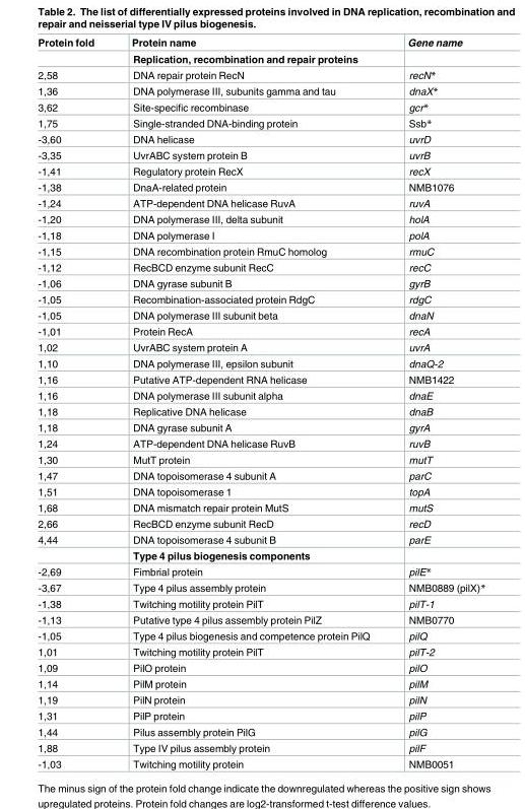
<table><thead><tr><td>Protein fold</td><td>Protein name</td><td>Gene name</td></tr></thead><tbody><tr><td></td><td>Replication, recombination and repair proteins</td><td></td></tr><tr><td>2,58</td><td>DNA repair protein RecN</td><td>recN*</td></tr><tr><td>1,36</td><td>DNA polymerase III, subunits gamma and tau</td><td>dnaX*</td></tr><tr><td>3,62</td><td>Site-specific recombinase</td><td>gcr*</td></tr><tr><td>1,75</td><td>Single-stranded DNA-binding protein</td><td>Ssb*</td></tr><tr><td>-3,60</td><td>DNA helicase</td><td>uvrD</td></tr><tr><td>-3,35</td><td>UvrABC system protein B</td><td>uvrB</td></tr><tr><td>-1,41</td><td>Regulatory protein RecX</td><td>recX</td></tr><tr><td>-1,38</td><td>DnaA-related protein</td><td>NMB1076</td></tr><tr><td>-1,24</td><td>ATP-dependent DNA helicase RuvA</td><td>ruvA</td></tr><tr><td>-1,20</td><td>DNA polymerase III, delta subunit</td><td>holA</td></tr><tr><td>-1,18</td><td>DNA polymerase I</td><td>polA</td></tr><tr><td>-1,15</td><td>DNA recombination protein RmuC homolog</td><td>rmuC</td></tr><tr><td>-1,12</td><td>RecBCD enzyme subunit RecC</td><td>recC</td></tr><tr><td>-1,06</td><td>DNA gyrase subunit B</td><td>gyrB</td></tr><tr><td>-1,05</td><td>Recombination-associated protein RdgC</td><td>rdgC</td></tr><tr><td>-1,05</td><td>DNA polymerase III subunit beta</td><td>dnaN</td></tr><tr><td>-1,01</td><td>Protein RecA</td><td>recA</td></tr><tr><td>1,02</td><td>UvrABC system protein A</td><td>uvrA</td></tr><tr><td>1,10</td><td>DNA polymerase III, epsilon subunit</td><td>dnaQ-2</td></tr><tr><td>1,16</td><td>Putative ATP-dependent RNA helicase</td><td>NMB1422</td></tr><tr><td>1,16</td><td>DNA polymerase III subunit alpha</td><td>dnaE</td></tr><tr><td>1,18</td><td>Replicative DNA helicase</td><td>dnaB</td></tr><tr><td>1,18</td><td>DNA gyrase subunit A</td><td>gyrA</td></tr><tr><td>1,24</td><td>ATP-dependent DNA helicase RuvB</td><td>ruvB</td></tr><tr><td>1,30</td><td>MutT protein</td><td>mutT</td></tr><tr><td>1,47</td><td>DNA topoisomerase 4 subunit A</td><td>parC</td></tr><tr><td>1,51</td><td>DNA topoisomerase 1</td><td>topA</td></tr><tr><td>1,68</td><td>DNA mismatch repair protein MutS</td><td>mutS</td></tr><tr><td>2,66</td><td>RecBCD enzyme subunit RecD</td><td>recD</td></tr><tr><td rowspan="2">4,44</td><td>DNA topoisomerase 4 subunit B</td><td>parE</td></tr><tr><td>Type 4 pilus biogenesis components</td><td></td></tr><tr><td>-2,69</td><td>Fimbrial protein</td><td>pilE*</td></tr><tr><td>-3,67</td><td>Type 4 pilus assembly protein</td><td>NMB0889 (pilX)*</td></tr><tr><td>-1,38</td><td>Twitching motility protein PilT</td><td>pilT-1</td></tr><tr><td>-1,13</td><td>Putative type 4 pilus assembly protein PilZ</td><td>NMB0770</td></tr><tr><td>-1,05</td><td>Type 4 pilus biogenesis and competence protein PilQ</td><td>pilQ</td></tr><tr><td>1,01</td><td>Twitching motility protein PilT</td><td>pilT-2</td></tr><tr><td>1,09</td><td>PilO protein</td><td>pilO</td></tr><tr><td>1,14</td><td>PilM protein</td><td>pilM</td></tr><tr><td>1,19</td><td>PilN protein</td><td>pilN</td></tr><tr><td>1,31</td><td>PilP protein</td><td>pilP</td></tr><tr><td>1,44</td><td>Pilus assembly protein PilG</td><td>pilG</td></tr><tr><td>1,88</td><td>Type IV pilus assembly protein</td><td>pilF</td></tr><tr><td>-1,03</td><td>Twitching motility protein</td><td>NMB0051</td></tr></tbody></table>